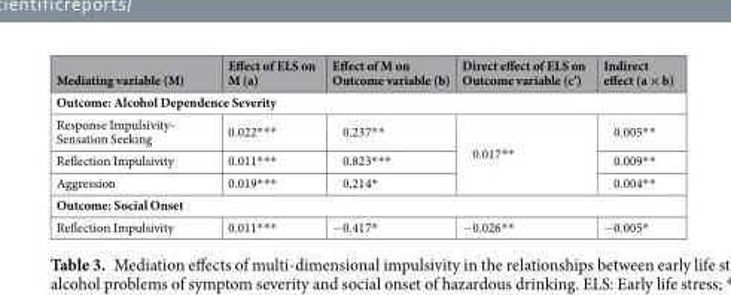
<table><thead><tr><td>Mediating variable (M)</td><td>Effect of ELS on M (a)</td><td>Effect of M on Outcome variable (b)</td><td>Direct effect of ELS on Outcome variable (c’)</td><td>Indirect effect (a × b)</td></tr></thead><tbody><tr><td colspan="5">Outcome: Alcohol Dependence Severity</td></tr><tr><td>Response Impulsivity- Sensation Seeking</td><td>0.022***</td><td>0.237**</td><td rowspan="3">0.017**</td><td>0.005**</td></tr><tr><td>Reflection Impulsivity</td><td>0.011***</td><td>0.823***</td><td>0.009**</td></tr><tr><td>Aggression</td><td>0.019***</td><td>0.214*</td><td>0.004**</td></tr><tr><td colspan="5">Outcome: Social Onset</td></tr><tr><td>Reflection Impulsivity</td><td>0.011***</td><td>−0.417*</td><td>−0.026**</td><td>−0.005*</td></tr></tbody></table>